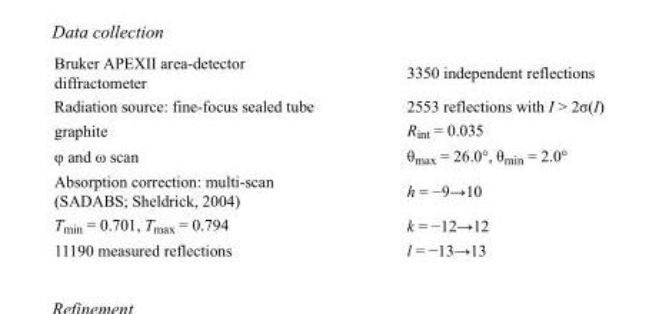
<table><tbody><tr><td>Bruker APEXII area-detector diffractometer</td><td>3350 independent reflections</td></tr><tr><td>Radiation source: fine-focus sealed tube</td><td>2553 reflections with I &gt; 2σ(I)</td></tr><tr><td>graphite</td><td>R<sub>int</sub> = 0.035</td></tr><tr><td>φ and ω scan</td><td>θ<sub>max</sub> = 26.0°, θ<sub>min</sub> = 2.0°</td></tr><tr><td>Absorption correction: multi-scan (SADABS; Sheldrick, 2004)</td><td>h = −9→10</td></tr><tr><td>T<sub>min</sub> = 0.701, T<sub>max</sub> = 0.794</td><td>k = −12→12</td></tr><tr><td>11190 measured reflections</td><td>l = −13→13</td></tr></tbody></table>